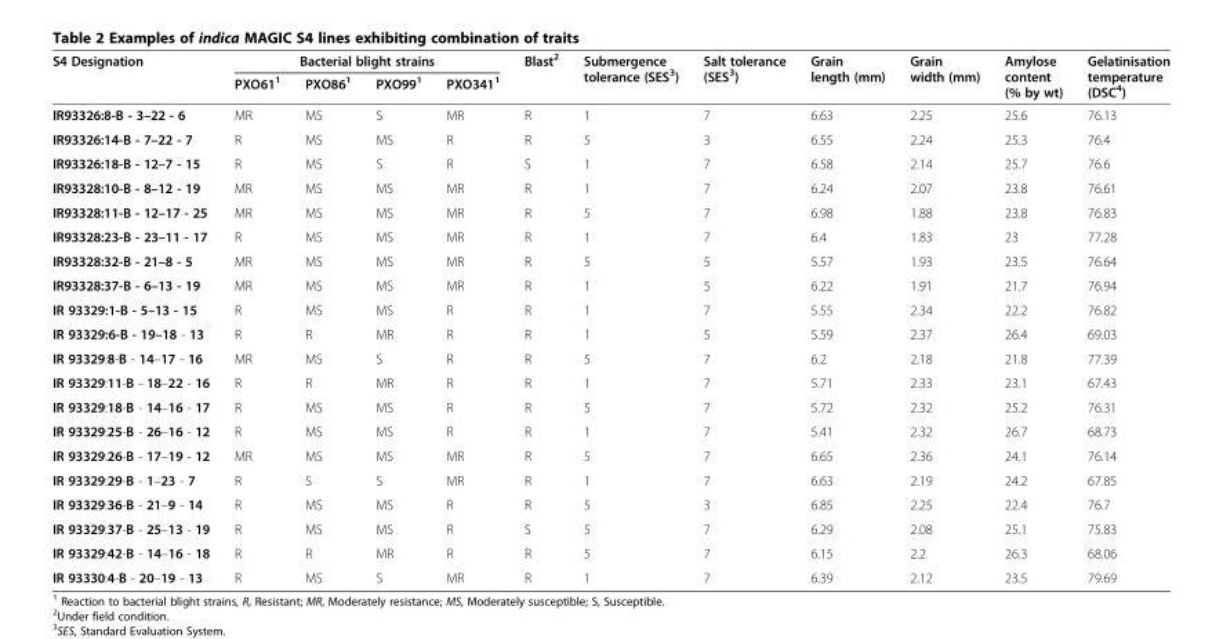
<table><thead><tr><td rowspan="2">S4 Designation</td><td colspan="4">Bacterial blight strains</td><td rowspan="2">Blast<sup>2</sup></td><td rowspan="2">Submergence tolerance (SES<sup>3</sup>)</td><td rowspan="2">Salt tolerance (SES<sup>3</sup>)</td><td rowspan="2">Grain length (mm)</td><td rowspan="2">Grain width (mm)</td><td rowspan="2">Amylose content (% by wt)</td><td rowspan="2">Gelatinisation temperature (DSC<sup>4</sup>)</td></tr><tr><td>PXO61<sup>1</sup></td><td>PXO86<sup>1</sup></td><td>PXO99<sup>1</sup></td><td>PXO341<sup>1</sup></td></tr></thead><tbody><tr><td>IR93326:8-B - 3–22 - 6</td><td>MR</td><td>MS</td><td>S</td><td>MR</td><td>R</td><td>1</td><td>7</td><td>6.63</td><td>2.25</td><td>25.6</td><td>76.13</td></tr><tr><td>IR93326:14-B - 7–22 - 7</td><td>R</td><td>MS</td><td>MS</td><td>R</td><td>R</td><td>5</td><td>3</td><td>6.55</td><td>2.24</td><td>25.3</td><td>76.4</td></tr><tr><td>IR93326:18-B - 12–7 - 15</td><td>R</td><td>MS</td><td>S</td><td>R</td><td>S</td><td>1</td><td>7</td><td>6.58</td><td>2.14</td><td>25.7</td><td>76.6</td></tr><tr><td>IR93328:10-B - 8–12 - 19</td><td>MR</td><td>MS</td><td>MS</td><td>MR</td><td>R</td><td>1</td><td>7</td><td>6.24</td><td>2.07</td><td>23.8</td><td>76.61</td></tr><tr><td>IR93328:11-B - 12–17 - 25</td><td>MR</td><td>MS</td><td>MS</td><td>MR</td><td>R</td><td>5</td><td>7</td><td>6.98</td><td>1.88</td><td>23.8</td><td>76.83</td></tr><tr><td>IR93328:23-B - 23–11 - 17</td><td>R</td><td>MS</td><td>MS</td><td>MR</td><td>R</td><td>1</td><td>7</td><td>6.4</td><td>1.83</td><td>23</td><td>77.28</td></tr><tr><td>IR93328:32-B - 21–8 - 5</td><td>MR</td><td>MS</td><td>MS</td><td>MR</td><td>R</td><td>5</td><td>5</td><td>5.57</td><td>1.93</td><td>23.5</td><td>76.64</td></tr><tr><td>IR93328:37-B - 6–13 - 19</td><td>MR</td><td>MS</td><td>MS</td><td>MR</td><td>R</td><td>1</td><td>5</td><td>6.22</td><td>1.91</td><td>21.7</td><td>76.94</td></tr><tr><td>IR 93329:1-B - 5–13 - 15</td><td>R</td><td>MS</td><td>MS</td><td>R</td><td>R</td><td>1</td><td>7</td><td>5.55</td><td>2.34</td><td>22.2</td><td>76.82</td></tr><tr><td>IR 93329:6-B - 19–18 - 13</td><td>R</td><td>R</td><td>MR</td><td>R</td><td>R</td><td>1</td><td>5</td><td>5.59</td><td>2.37</td><td>26.4</td><td>69.03</td></tr><tr><td>IR 93329:8-B - 14–17 - 16</td><td>MR</td><td>MS</td><td>S</td><td>R</td><td>R</td><td>5</td><td>7</td><td>6.2</td><td>2.18</td><td>21.8</td><td>77.39</td></tr><tr><td>IR 93329:11-B - 18–22 - 16</td><td>R</td><td>R</td><td>MR</td><td>R</td><td>R</td><td>1</td><td>7</td><td>5.71</td><td>2.33</td><td>23.1</td><td>67.43</td></tr><tr><td>IR 93329:18-B - 14–16 - 17</td><td>R</td><td>MS</td><td>MS</td><td>R</td><td>R</td><td>5</td><td>7</td><td>5.72</td><td>2.32</td><td>25.2</td><td>76.31</td></tr><tr><td>IR 93329:25-B - 26–16 - 12</td><td>R</td><td>MS</td><td>MS</td><td>R</td><td>R</td><td>1</td><td>7</td><td>5.41</td><td>2.32</td><td>26.7</td><td>68.73</td></tr><tr><td>IR 93329:26-B - 17–19 - 12</td><td>MR</td><td>MS</td><td>MS</td><td>MR</td><td>R</td><td>5</td><td>7</td><td>6.65</td><td>2.36</td><td>24.1</td><td>76.14</td></tr><tr><td>IR 93329:29-B - 1–23 - 7</td><td>R</td><td>S</td><td>S</td><td>MR</td><td>R</td><td>1</td><td>7</td><td>6.63</td><td>2.19</td><td>24.2</td><td>67.85</td></tr><tr><td>IR 93329:36-B - 21–9 - 14</td><td>R</td><td>MS</td><td>MS</td><td>R</td><td>R</td><td>5</td><td>3</td><td>6.85</td><td>2.25</td><td>22.4</td><td>76.7</td></tr><tr><td>IR 93329:37-B - 25–13 - 19</td><td>R</td><td>MS</td><td>MS</td><td>R</td><td>S</td><td>5</td><td>7</td><td>6.29</td><td>2.08</td><td>25.1</td><td>75.83</td></tr><tr><td>IR 93329:42-B - 14–16 - 18</td><td>R</td><td>R</td><td>MR</td><td>R</td><td>R</td><td>5</td><td>7</td><td>6.15</td><td>2.2</td><td>26.3</td><td>68.06</td></tr><tr><td>IR 93330:4-B - 20–19 - 13</td><td>R</td><td>MS</td><td>S</td><td>MR</td><td>R</td><td>1</td><td>7</td><td>6.39</td><td>2.12</td><td>23.5</td><td>79.69</td></tr></tbody></table>